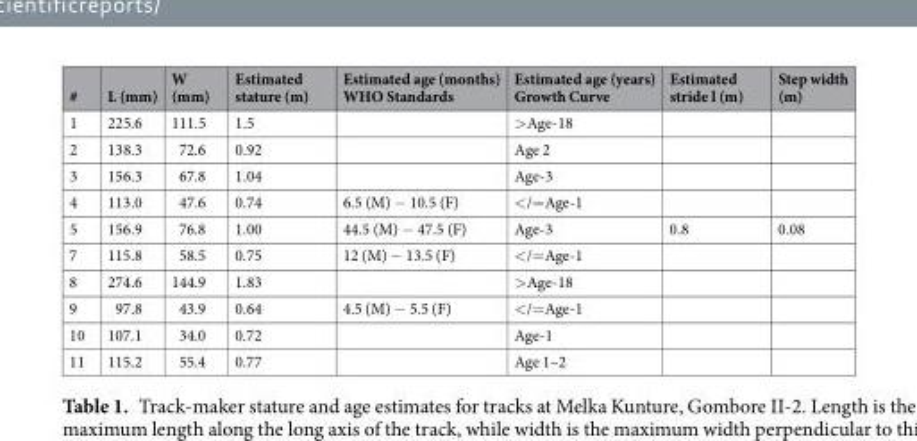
<table><thead><tr><td>#</td><td>L (mm)</td><td>W (mm)</td><td>Estimated stature (m)</td><td>Estimated age (months) WHO Standards</td><td>Estimated age (years) Growth Curve</td><td>Estimated stride l (m)</td><td>Step width (m)</td></tr></thead><tbody><tr><td>1</td><td>225.6</td><td>111.5</td><td>1.5</td><td></td><td>&gt;Age-18</td><td></td><td></td></tr><tr><td>2</td><td>138.3</td><td>72.6</td><td>0.92</td><td></td><td>Age 2</td><td></td><td></td></tr><tr><td>3</td><td>156.3</td><td>67.8</td><td>1.04</td><td></td><td>Age-3</td><td></td><td></td></tr><tr><td>4</td><td>113.0</td><td>47.6</td><td>0.74</td><td>6.5 (M) − 10.5 (F)</td><td>&lt;/=Age-1</td><td></td><td></td></tr><tr><td>5</td><td>156.9</td><td>76.8</td><td>1.00</td><td>44.5 (M) − 47.5 (F)</td><td>Age-3</td><td>0.8</td><td>0.08</td></tr><tr><td>7</td><td>115.8</td><td>58.5</td><td>0.75</td><td>12 (M) − 13.5 (F)</td><td>&lt;/=Age-1</td><td></td><td></td></tr><tr><td>8</td><td>274.6</td><td>144.9</td><td>1.83</td><td></td><td>&gt;Age-18</td><td></td><td></td></tr><tr><td>9</td><td>97.8</td><td>43.9</td><td>0.64</td><td>4.5 (M) − 5.5 (F)</td><td>&lt;/=Age-1</td><td></td><td></td></tr><tr><td>10</td><td>107.1</td><td>34.0</td><td>0.72</td><td></td><td>Age-1</td><td></td><td></td></tr><tr><td>11</td><td>115.2</td><td>55.4</td><td>0.77</td><td></td><td>Age 1–2</td><td></td><td></td></tr></tbody></table>